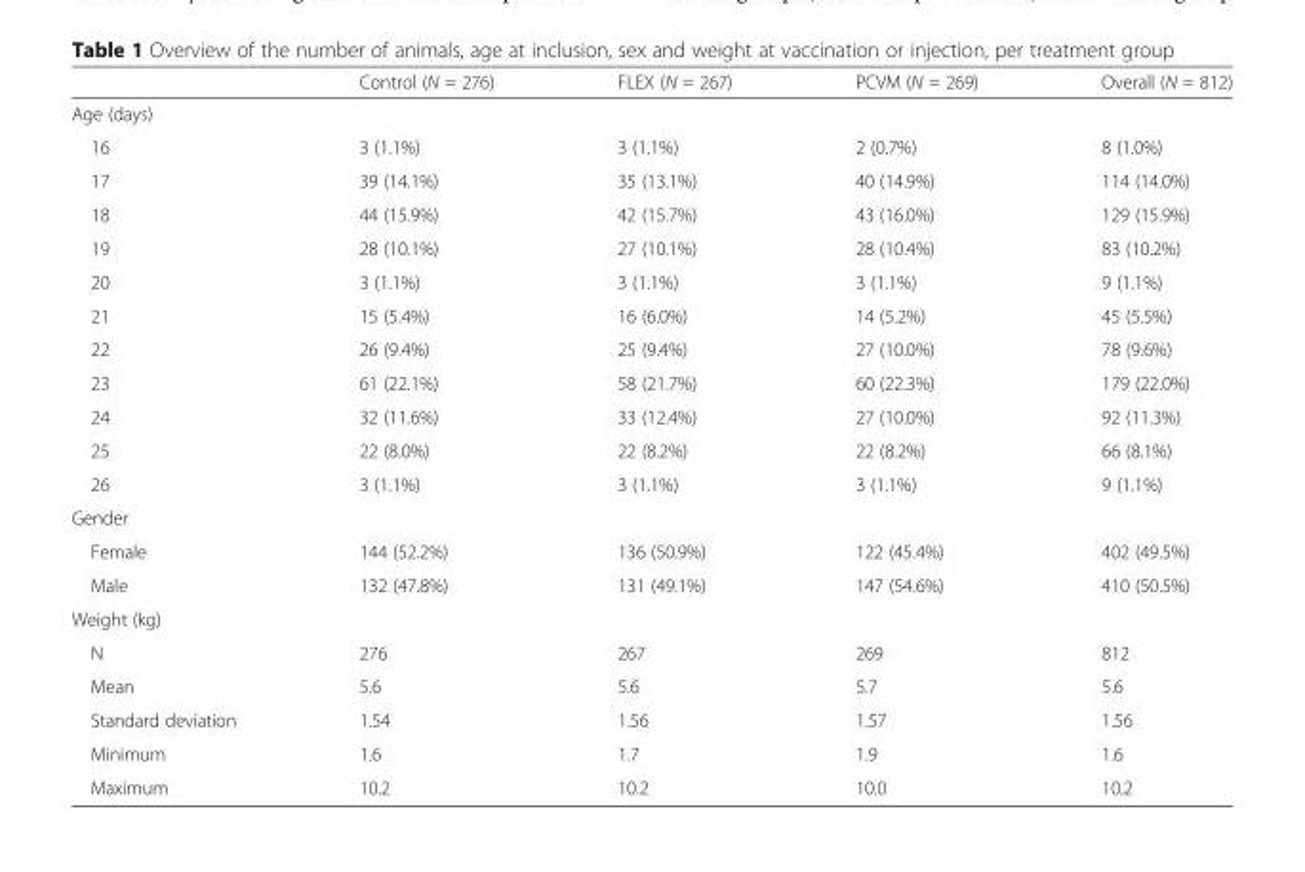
<table><thead><tr><td></td><td>Control (N = 276)</td><td>FLEX (N = 267)</td><td>PCVM (N = 269)</td><td>Overall (N = 812)</td></tr></thead><tbody><tr><td colspan="5">Age (days)</td></tr><tr><td>16</td><td>3 (1.1%)</td><td>3 (1.1%)</td><td>2 (0.7%)</td><td>8 (1.0%)</td></tr><tr><td>17</td><td>39 (14.1%)</td><td>35 (13.1%)</td><td>40 (14.9%)</td><td>114 (14.0%)</td></tr><tr><td>18</td><td>44 (15.9%)</td><td>42 (15.7%)</td><td>43 (16.0%)</td><td>129 (15.9%)</td></tr><tr><td>19</td><td>28 (10.1%)</td><td>27 (10.1%)</td><td>28 (10.4%)</td><td>83 (10.2%)</td></tr><tr><td>20</td><td>3 (1.1%)</td><td>3 (1.1%)</td><td>3 (1.1%)</td><td>9 (1.1%)</td></tr><tr><td>21</td><td>15 (5.4%)</td><td>16 (6.0%)</td><td>14 (5.2%)</td><td>45 (5.5%)</td></tr><tr><td>22</td><td>26 (9.4%)</td><td>25 (9.4%)</td><td>27 (10.0%)</td><td>78 (9.6%)</td></tr><tr><td>23</td><td>61 (22.1%)</td><td>58 (21.7%)</td><td>60 (22.3%)</td><td>179 (22.0%)</td></tr><tr><td>24</td><td>32 (11.6%)</td><td>33 (12.4%)</td><td>27 (10.0%)</td><td>92 (11.3%)</td></tr><tr><td>25</td><td>22 (8.0%)</td><td>22 (8.2%)</td><td>22 (8.2%)</td><td>66 (8.1%)</td></tr><tr><td>26</td><td>3 (1.1%)</td><td>3 (1.1%)</td><td>3 (1.1%)</td><td>9 (1.1%)</td></tr><tr><td colspan="5">Gender</td></tr><tr><td>Female</td><td>144 (52.2%)</td><td>136 (50.9%)</td><td>122 (45.4%)</td><td>402 (49.5%)</td></tr><tr><td>Male</td><td>132 (47.8%)</td><td>131 (49.1%)</td><td>147 (54.6%)</td><td>410 (50.5%)</td></tr><tr><td colspan="5">Weight (kg)</td></tr><tr><td>N</td><td>276</td><td>267</td><td>269</td><td>812</td></tr><tr><td>Mean</td><td>5.6</td><td>5.6</td><td>5.7</td><td>5.6</td></tr><tr><td>Standard deviation</td><td>1.54</td><td>1.56</td><td>1.57</td><td>1.56</td></tr><tr><td>Minimum</td><td>1.6</td><td>1.7</td><td>1.9</td><td>1.6</td></tr><tr><td>Maximum</td><td>10.2</td><td>10.2</td><td>10.0</td><td>10.2</td></tr></tbody></table>